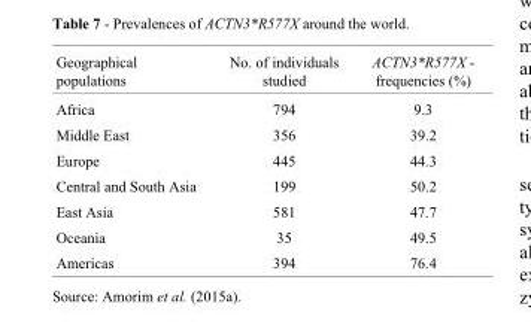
<table><thead><tr><td>Geographical populations</td><td>No. of individuals studied</td><td>ACTN3*R577X - frequencies (%)</td></tr></thead><tbody><tr><td>Africa</td><td>794</td><td>9.3</td></tr><tr><td>Middle East</td><td>356</td><td>39.2</td></tr><tr><td>Europe</td><td>445</td><td>44.3</td></tr><tr><td>Central and South Asia</td><td>199</td><td>50.2</td></tr><tr><td>East Asia</td><td>581</td><td>47.7</td></tr><tr><td>Oceania</td><td>35</td><td>49.5</td></tr><tr><td>Americas</td><td>394</td><td>76.4</td></tr></tbody></table>